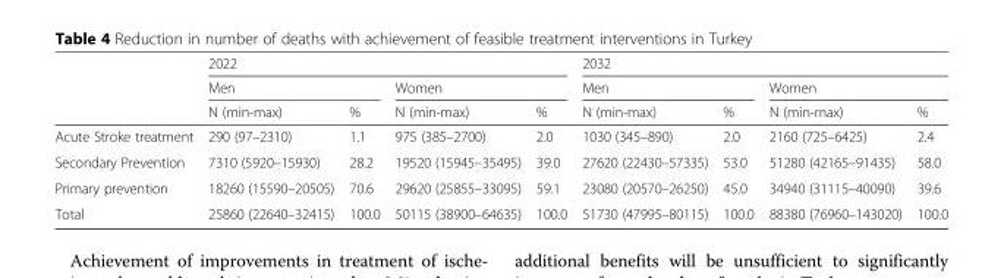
<table><thead><tr><td rowspan="3"></td><td colspan="4">2022</td><td colspan="4">2032</td></tr><tr><td colspan="2">Men</td><td colspan="2">Women</td><td colspan="2">Men</td><td colspan="2">Women</td></tr><tr><td>N (min-max)</td><td>%</td><td>N (min-max)</td><td>%</td><td>N (min-max)</td><td>%</td><td>N (min-max)</td><td>%</td></tr></thead><tbody><tr><td>Acute Stroke treatment</td><td>290 (97–2310)</td><td>1.1</td><td>975 (385–2700)</td><td>2.0</td><td>1030 (345–890)</td><td>2.0</td><td>2160 (725–6425)</td><td>2.4</td></tr><tr><td>Secondary Prevention</td><td>7310 (5920–15930)</td><td>28.2</td><td>19520 (15945–35495)</td><td>39.0</td><td>27620 (22430–57335)</td><td>53.0</td><td>51280 (42165–91435)</td><td>58.0</td></tr><tr><td>Primary prevention</td><td>18260 (15590–20505)</td><td>70.6</td><td>29620 (25855–33095)</td><td>59.1</td><td>23080 (20570–26250)</td><td>45.0</td><td>34940 (31115–40090)</td><td>39.6</td></tr><tr><td>Total</td><td>25860 (22640–32415)</td><td>100.0</td><td>50115 (38900–64635)</td><td>100.0</td><td>51730 (47995–80115)</td><td>100.0</td><td>88380 (76960–143020)</td><td>100.0</td></tr></tbody></table>